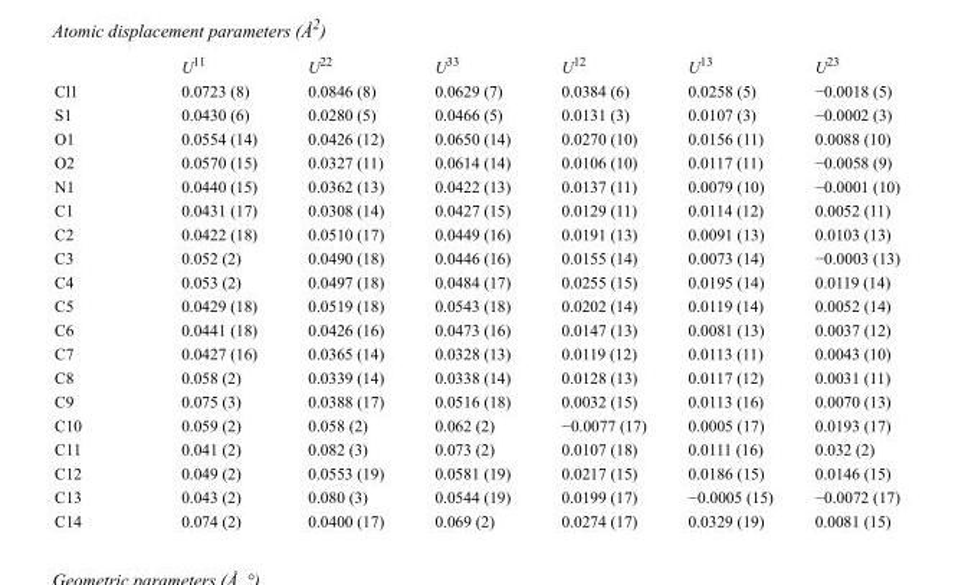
<table><thead><tr><td></td><td>U<sup>11</sup></td><td>U<sup>22</sup></td><td>U<sup>33</sup></td><td>U<sup>12</sup></td><td>U<sup>13</sup></td><td>U<sup>23</sup></td></tr></thead><tbody><tr><td>Cl1</td><td>0.0723 (8)</td><td>0.0846 (8)</td><td>0.0629 (7)</td><td>0.0384 (6)</td><td>0.0258 (5)</td><td>−0.0018 (5)</td></tr><tr><td>S1</td><td>0.0430 (6)</td><td>0.0280 (5)</td><td>0.0466 (5)</td><td>0.0131 (3)</td><td>0.0107 (3)</td><td>−0.0002 (3)</td></tr><tr><td>O1</td><td>0.0554 (14)</td><td>0.0426 (12)</td><td>0.0650 (14)</td><td>0.0270 (10)</td><td>0.0156 (11)</td><td>0.0088 (10)</td></tr><tr><td>O2</td><td>0.0570 (15)</td><td>0.0327 (11)</td><td>0.0614 (14)</td><td>0.0106 (10)</td><td>0.0117 (11)</td><td>−0.0058 (9)</td></tr><tr><td>N1</td><td>0.0440 (15)</td><td>0.0362 (13)</td><td>0.0422 (13)</td><td>0.0137 (11)</td><td>0.0079 (10)</td><td>−0.0001 (10)</td></tr><tr><td>C1</td><td>0.0431 (17)</td><td>0.0308 (14)</td><td>0.0427 (15)</td><td>0.0129 (11)</td><td>0.0114 (12)</td><td>0.0052 (11)</td></tr><tr><td>C2</td><td>0.0422 (18)</td><td>0.0510 (17)</td><td>0.0449 (16)</td><td>0.0191 (13)</td><td>0.0091 (13)</td><td>0.0103 (13)</td></tr><tr><td>C3</td><td>0.052 (2)</td><td>0.0490 (18)</td><td>0.0446 (16)</td><td>0.0155 (14)</td><td>0.0073 (14)</td><td>−0.0003 (13)</td></tr><tr><td>C4</td><td>0.053 (2)</td><td>0.0497 (18)</td><td>0.0484 (17)</td><td>0.0255 (15)</td><td>0.0195 (14)</td><td>0.0119 (14)</td></tr><tr><td>C5</td><td>0.0429 (18)</td><td>0.0519 (18)</td><td>0.0543 (18)</td><td>0.0202 (14)</td><td>0.0119 (14)</td><td>0.0052 (14)</td></tr><tr><td>C6</td><td>0.0441 (18)</td><td>0.0426 (16)</td><td>0.0473 (16)</td><td>0.0147 (13)</td><td>0.0081 (13)</td><td>0.0037 (12)</td></tr><tr><td>C7</td><td>0.0427 (16)</td><td>0.0365 (14)</td><td>0.0328 (13)</td><td>0.0119 (12)</td><td>0.0113 (11)</td><td>0.0043 (10)</td></tr><tr><td>C8</td><td>0.058 (2)</td><td>0.0339 (14)</td><td>0.0338 (14)</td><td>0.0128 (13)</td><td>0.0117 (12)</td><td>0.0031 (11)</td></tr><tr><td>C9</td><td>0.075 (3)</td><td>0.0388 (17)</td><td>0.0516 (18)</td><td>0.0032 (15)</td><td>0.0113 (16)</td><td>0.0070 (13)</td></tr><tr><td>C10</td><td>0.059 (2)</td><td>0.058 (2)</td><td>0.062 (2)</td><td>−0.0077 (17)</td><td>0.0005 (17)</td><td>0.0193 (17)</td></tr><tr><td>C11</td><td>0.041 (2)</td><td>0.082 (3)</td><td>0.073 (2)</td><td>0.0107 (18)</td><td>0.0111 (16)</td><td>0.032 (2)</td></tr><tr><td>C12</td><td>0.049 (2)</td><td>0.0553 (19)</td><td>0.0581 (19)</td><td>0.0217 (15)</td><td>0.0186 (15)</td><td>0.0146 (15)</td></tr><tr><td>C13</td><td>0.043 (2)</td><td>0.080 (3)</td><td>0.0544 (19)</td><td>0.0199 (17)</td><td>−0.0005 (15)</td><td>−0.0072 (17)</td></tr><tr><td>C14</td><td>0.074 (2)</td><td>0.0400 (17)</td><td>0.069 (2)</td><td>0.0274 (17)</td><td>0.0329 (19)</td><td>0.0081 (15)</td></tr></tbody></table>